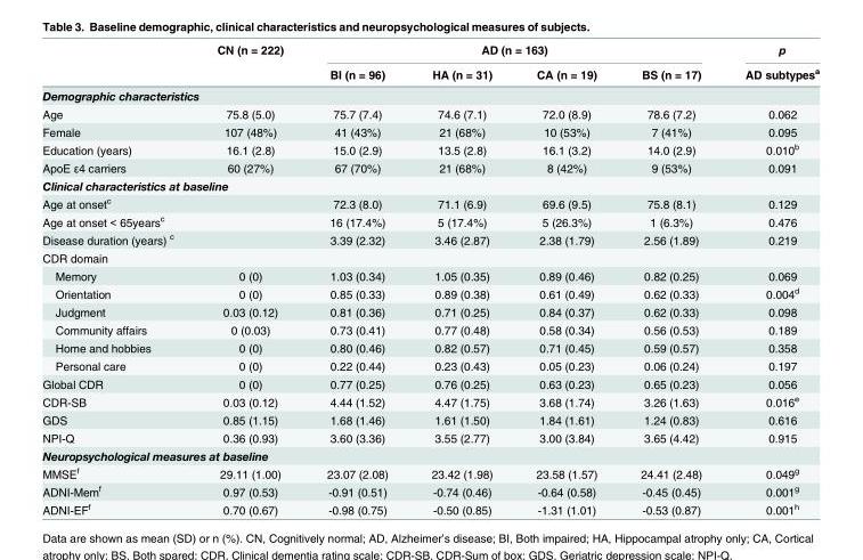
<table><thead><tr><td rowspan="2"></td><td rowspan="2">CN (n = 222)</td><td colspan="4">AD (n = 163)</td><td rowspan="2">p AD subtypes<sup>a</sup></td></tr><tr><td>BI (n = 96)</td><td>HA (n = 31)</td><td>CA (n = 19)</td><td>BS (n = 17)</td></tr></thead><tbody><tr><td colspan="7">Demographic characteristics</td></tr><tr><td>Age</td><td>75.8 (5.0)</td><td>75.7 (7.4)</td><td>74.6 (7.1)</td><td>72.0 (8.9)</td><td>78.6 (7.2)</td><td>0.062</td></tr><tr><td>Female</td><td>107 (48%)</td><td>41 (43%)</td><td>21 (68%)</td><td>10 (53%)</td><td>7 (41%)</td><td>0.095</td></tr><tr><td>Education (years)</td><td>16.1 (2.8)</td><td>15.0 (2.9)</td><td>13.5 (2.8)</td><td>16.1 (3.2)</td><td>14.0 (2.9)</td><td>0.010<sup>b</sup></td></tr><tr><td>ApoE ε4 carriers</td><td>60 (27%)</td><td>67 (70%)</td><td>21 (68%)</td><td>8 (42%)</td><td>9 (53%)</td><td>0.091</td></tr><tr><td colspan="7">Clinical characteristics at baseline</td></tr><tr><td>Age at onset<sup>c</sup></td><td></td><td>72.3 (8.0)</td><td>71.1 (6.9)</td><td>69.6 (9.5)</td><td>75.8 (8.1)</td><td>0.129</td></tr><tr><td>Age at onset &lt; 65years<sup>c</sup></td><td></td><td>16 (17.4%)</td><td>5 (17.4%)</td><td>5 (26.3%)</td><td>1 (6.3%)</td><td>0.476</td></tr><tr><td>Disease duration (years) <sup>c</sup></td><td></td><td>3.39 (2.32)</td><td>3.46 (2.87)</td><td>2.38 (1.79)</td><td>2.56 (1.89)</td><td>0.219</td></tr><tr><td colspan="7">CDR domain</td></tr><tr><td>Memory</td><td>0 (0)</td><td>1.03 (0.34)</td><td>1.05 (0.35)</td><td>0.89 (0.46)</td><td>0.82 (0.25)</td><td>0.069</td></tr><tr><td>Orientation</td><td>0 (0)</td><td>0.85 (0.33)</td><td>0.89 (0.38)</td><td>0.61 (0.49)</td><td>0.62 (0.33)</td><td>0.004<sup>d</sup></td></tr><tr><td>Judgment</td><td>0.03 (0.12)</td><td>0.81 (0.36)</td><td>0.71 (0.25)</td><td>0.84 (0.37)</td><td>0.62 (0.33)</td><td>0.098</td></tr><tr><td>Community affairs</td><td>0 (0.03)</td><td>0.73 (0.41)</td><td>0.77 (0.48)</td><td>0.58 (0.34)</td><td>0.56 (0.53)</td><td>0.189</td></tr><tr><td>Home and hobbies</td><td>0 (0)</td><td>0.80 (0.46)</td><td>0.82 (0.57)</td><td>0.71 (0.45)</td><td>0.59 (0.57)</td><td>0.358</td></tr><tr><td>Personal care</td><td>0 (0)</td><td>0.22 (0.44)</td><td>0.23 (0.43)</td><td>0.05 (0.23)</td><td>0.06 (0.24)</td><td>0.197</td></tr><tr><td>Global CDR</td><td>0 (0)</td><td>0.77 (0.25)</td><td>0.76 (0.25)</td><td>0.63 (0.23)</td><td>0.65 (0.23)</td><td>0.056</td></tr><tr><td>CDR-SB</td><td>0.03 (0.12)</td><td>4.44 (1.52)</td><td>4.47 (1.75)</td><td>3.68 (1.74)</td><td>3.26 (1.63)</td><td>0.016<sup>e</sup></td></tr><tr><td>GDS</td><td>0.85 (1.15)</td><td>1.68 (1.46)</td><td>1.61 (1.50)</td><td>1.84 (1.61)</td><td>1.24 (0.83)</td><td>0.616</td></tr><tr><td>NPI-Q</td><td>0.36 (0.93)</td><td>3.60 (3.36)</td><td>3.55 (2.77)</td><td>3.00 (3.84)</td><td>3.65 (4.42)</td><td>0.915</td></tr><tr><td colspan="7">Neuropsychological measures at baseline</td></tr><tr><td>MMSE<sup>f</sup></td><td>29.11 (1.00)</td><td>23.07 (2.08)</td><td>23.42 (1.98)</td><td>23.58 (1.57)</td><td>24.41 (2.48)</td><td>0.049<sup>g</sup></td></tr><tr><td>ADNI-Mem<sup>f</sup></td><td>0.97 (0.53)</td><td>-0.91 (0.51)</td><td>-0.74 (0.46)</td><td>-0.64 (0.58)</td><td>-0.45 (0.45)</td><td>0.001<sup>g</sup></td></tr><tr><td>ADNI-EF<sup>f</sup></td><td>0.70 (0.67)</td><td>-0.98 (0.75)</td><td>-0.50 (0.85)</td><td>-1.31 (1.01)</td><td>-0.53 (0.87)</td><td>0.001<sup>h</sup></td></tr></tbody></table>